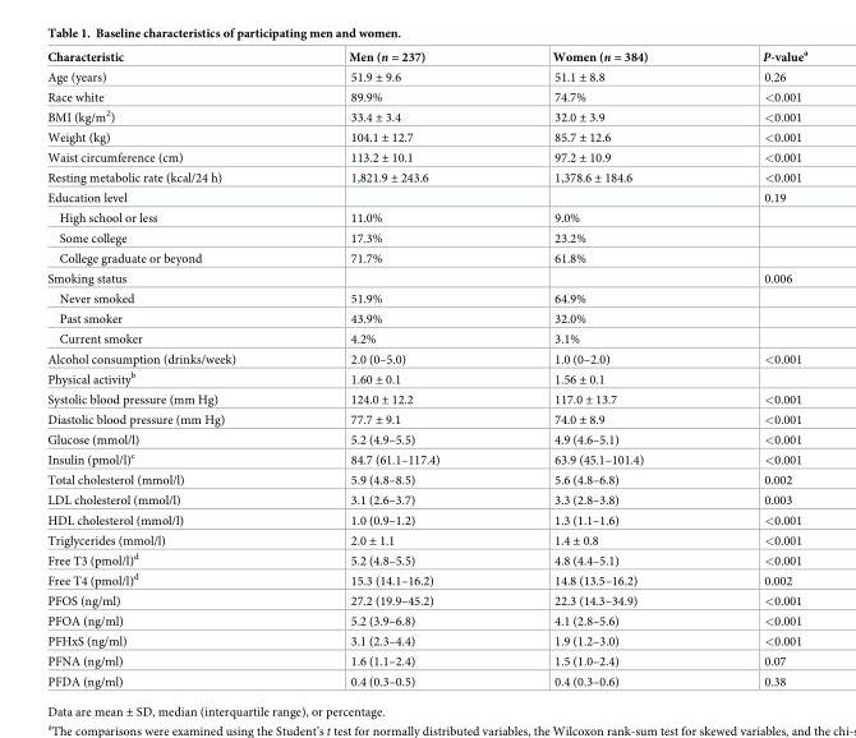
<table><thead><tr><td>Characteristic</td><td>Men (n = 237)</td><td>Women (n = 384)</td><td>P-value<sup>a</sup></td></tr></thead><tbody><tr><td>Age (years)</td><td>51.9 ± 9.6</td><td>51.1 ± 8.8</td><td>0.26</td></tr><tr><td>Race white</td><td>89.9%</td><td>74.7%</td><td>&lt;0.001</td></tr><tr><td>BMI (kg/m<sup>2</sup>)</td><td>33.4 ± 3.4</td><td>32.0 ± 3.9</td><td>&lt;0.001</td></tr><tr><td>Weight (kg)</td><td>104.1 ± 12.7</td><td>85.7 ± 12.6</td><td>&lt;0.001</td></tr><tr><td>Waist circumference (cm)</td><td>113.2 ± 10.1</td><td>97.2 ± 10.9</td><td>&lt;0.001</td></tr><tr><td>Resting metabolic rate (kcal/24 h)</td><td>1,821.9 ± 243.6</td><td>1,378.6 ± 184.6</td><td>&lt;0.001</td></tr><tr><td>Education level</td><td></td><td></td><td>0.19</td></tr><tr><td>High school or less</td><td>11.0%</td><td>9.0%</td><td></td></tr><tr><td>Some college</td><td>17.3%</td><td>23.2%</td><td></td></tr><tr><td>College graduate or beyond</td><td>71.7%</td><td>61.8%</td><td></td></tr><tr><td>Smoking status</td><td></td><td></td><td>0.006</td></tr><tr><td>Never smoked</td><td>51.9%</td><td>64.9%</td><td></td></tr><tr><td>Past smoker</td><td>43.9%</td><td>32.0%</td><td></td></tr><tr><td>Current smoker</td><td>4.2%</td><td>3.1%</td><td></td></tr><tr><td>Alcohol consumption (drinks/week)</td><td>2.0 (0–5.0)</td><td>1.0 (0–2.0)</td><td>&lt;0.001</td></tr><tr><td>Physical activity<sup>b</sup></td><td>1.60 ± 0.1</td><td>1.56 ± 0.1</td><td></td></tr><tr><td>Systolic blood pressure (mm Hg)</td><td>124.0 ± 12.2</td><td>117.0 ± 13.7</td><td>&lt;0.001</td></tr><tr><td>Diastolic blood pressure (mm Hg)</td><td>77.7 ± 9.1</td><td>74.0 ± 8.9</td><td>&lt;0.001</td></tr><tr><td>Glucose (mmol/l)</td><td>5.2 (4.9–5.5)</td><td>4.9 (4.6–5.1)</td><td>&lt;0.001</td></tr><tr><td>Insulin (pmol/l)<sup>c</sup></td><td>84.7 (61.1–117.4)</td><td>63.9 (45.1–101.4)</td><td>&lt;0.001</td></tr><tr><td>Total cholesterol (mmol/l)</td><td>5.9 (4.8–8.5)</td><td>5.6 (4.8–6.8)</td><td>0.002</td></tr><tr><td>LDL cholesterol (mmol/l)</td><td>3.1 (2.6–3.7)</td><td>3.3 (2.8–3.8)</td><td>0.003</td></tr><tr><td>HDL cholesterol (mmol/l)</td><td>1.0 (0.9–1.2)</td><td>1.3 (1.1–1.6)</td><td>&lt;0.001</td></tr><tr><td>Triglycerides (mmol/l)</td><td>2.0 ± 1.1</td><td>1.4 ± 0.8</td><td>&lt;0.001</td></tr><tr><td>Free T3 (pmol/l)<sup>d</sup></td><td>5.2 (4.8–5.5)</td><td>4.8 (4.4–5.1)</td><td>&lt;0.001</td></tr><tr><td>Free T4 (pmol/l)<sup>d</sup></td><td>15.3 (14.1–16.2)</td><td>14.8 (13.5–16.2)</td><td>0.002</td></tr><tr><td>PFOS (ng/ml)</td><td>27.2 (19.9–45.2)</td><td>22.3 (14.3–34.9)</td><td>&lt;0.001</td></tr><tr><td>PFOA (ng/ml)</td><td>5.2 (3.9–6.8)</td><td>4.1 (2.8–5.6)</td><td>&lt;0.001</td></tr><tr><td>PFHxS (ng/ml)</td><td>3.1 (2.3–4.4)</td><td>1.9 (1.2–3.0)</td><td>&lt;0.001</td></tr><tr><td>PFNA (ng/ml)</td><td>1.6 (1.1–2.4)</td><td>1.5 (1.0–2.4)</td><td>0.07</td></tr><tr><td>PFDA (ng/ml)</td><td>0.4 (0.3–0.5)</td><td>0.4 (0.3–0.6)</td><td>0.38</td></tr></tbody></table>